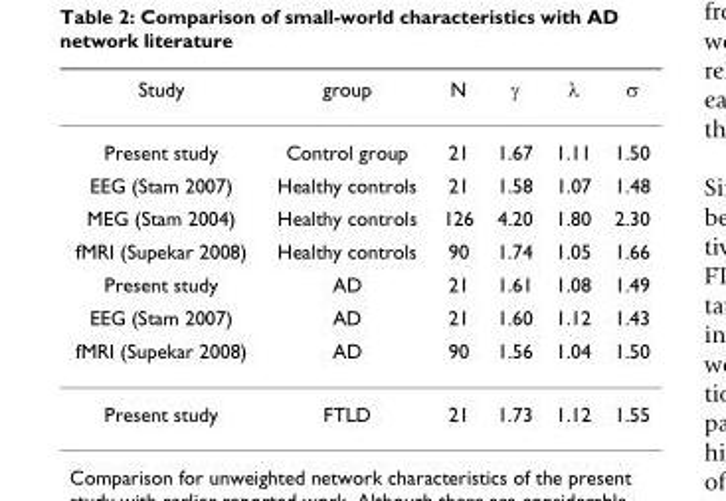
<table><thead><tr><td>Study</td><td>group</td><td>N</td><td>γ</td><td>λ</td><td>σ</td></tr></thead><tbody><tr><td>Present study</td><td>Control group</td><td>21</td><td>1.67</td><td>1.11</td><td>1.50</td></tr><tr><td>EEG (Stam 2007)</td><td>Healthy controls</td><td>21</td><td>1.58</td><td>1.07</td><td>1.48</td></tr><tr><td>MEG (Stam 2004)</td><td>Healthy controls</td><td>126</td><td>4.20</td><td>1.80</td><td>2.30</td></tr><tr><td>fMRI (Supekar 2008)</td><td>Healthy controls</td><td>90</td><td>1.74</td><td>1.05</td><td>1.66</td></tr><tr><td>Present study</td><td>AD</td><td>21</td><td>1.61</td><td>1.08</td><td>1.49</td></tr><tr><td>EEG (Stam 2007)</td><td>AD</td><td>21</td><td>1.60</td><td>1.12</td><td>1.43</td></tr><tr><td>fMRI (Supekar 2008)</td><td>AD</td><td>90</td><td>1.56</td><td>1.04</td><td>1.50</td></tr><tr><td>Present study</td><td>FTLD</td><td>21</td><td>1.73</td><td>1.12</td><td>1.55</td></tr></tbody></table>